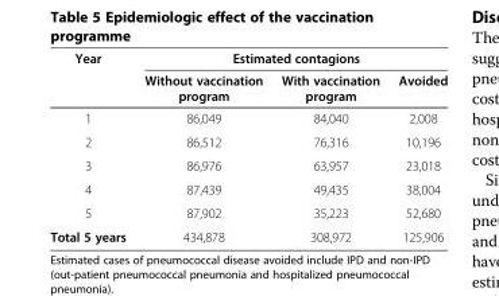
<table><thead><tr><td rowspan="2">Year</td><td colspan="3">Estimated contagions</td></tr><tr><td>Without vaccination program</td><td>With vaccination program</td><td>Avoided</td></tr></thead><tbody><tr><td>1</td><td>86,049</td><td>84,040</td><td>2,008</td></tr><tr><td>2</td><td>86,512</td><td>76,316</td><td>10,196</td></tr><tr><td>3</td><td>86,976</td><td>63,957</td><td>23,018</td></tr><tr><td>4</td><td>87,439</td><td>49,435</td><td>38,004</td></tr><tr><td>5</td><td>87,902</td><td>35,223</td><td>52,680</td></tr><tr><td>Total 5 years</td><td>434,878</td><td>308,972</td><td>125,906</td></tr></tbody></table>